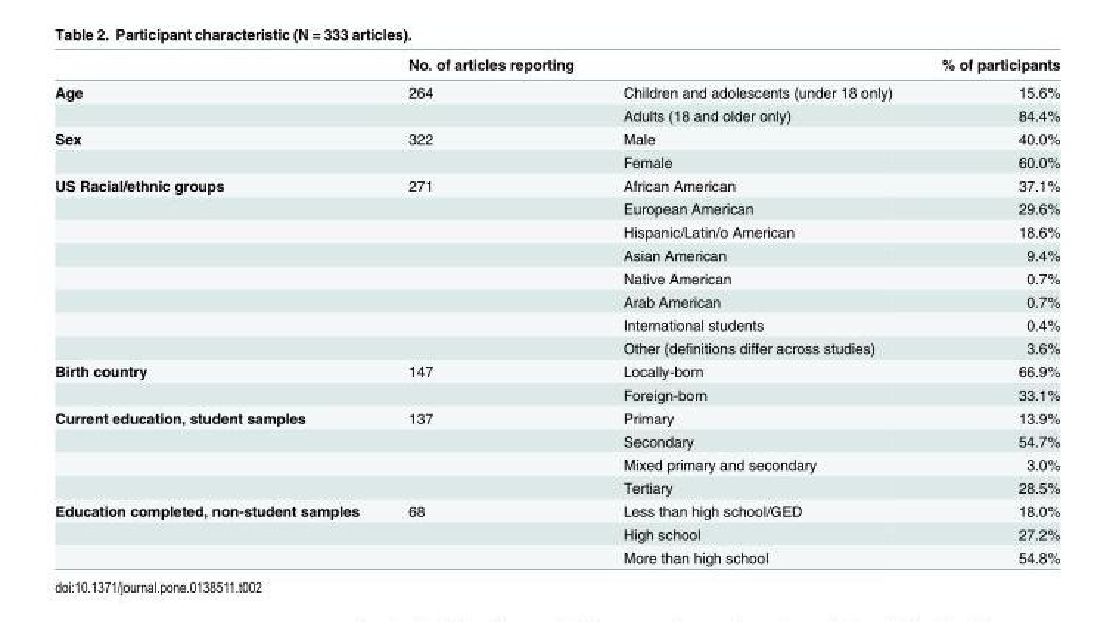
<table><thead><tr><td></td><td>No. of articles reporting</td><td></td><td>% of participants</td></tr></thead><tbody><tr><td rowspan="2">Age</td><td>264</td><td>Children and adolescents (under 18 only)</td><td>15.6%</td></tr><tr><td></td><td>Adults (18 and older only)</td><td>84.4%</td></tr><tr><td rowspan="2">Sex</td><td>322</td><td>Male</td><td>40.0%</td></tr><tr><td></td><td>Female</td><td>60.0%</td></tr><tr><td rowspan="8">US Racial/ethnic groups</td><td>271</td><td>African American</td><td>37.1%</td></tr><tr><td></td><td>European American</td><td>29.6%</td></tr><tr><td></td><td>Hispanic/Latin/o American</td><td>18.6%</td></tr><tr><td></td><td>Asian American</td><td>9.4%</td></tr><tr><td></td><td>Native American</td><td>0.7%</td></tr><tr><td></td><td>Arab American</td><td>0.7%</td></tr><tr><td></td><td>International students</td><td>0.4%</td></tr><tr><td></td><td>Other (definitions differ across studies)</td><td>3.6%</td></tr><tr><td rowspan="2">Birth country</td><td>147</td><td>Locally-born</td><td>66.9%</td></tr><tr><td></td><td>Foreign-born</td><td>33.1%</td></tr><tr><td rowspan="4">Current education, student samples</td><td>137</td><td>Primary</td><td>13.9%</td></tr><tr><td></td><td>Secondary</td><td>54.7%</td></tr><tr><td></td><td>Mixed primary and secondary</td><td>3.0%</td></tr><tr><td></td><td>Tertiary</td><td>28.5%</td></tr><tr><td rowspan="3">Education completed, non-student samples</td><td>68</td><td>Less than high school/GED</td><td>18.0%</td></tr><tr><td></td><td>High school</td><td>27.2%</td></tr><tr><td></td><td>More than high school</td><td>54.8%</td></tr></tbody></table>